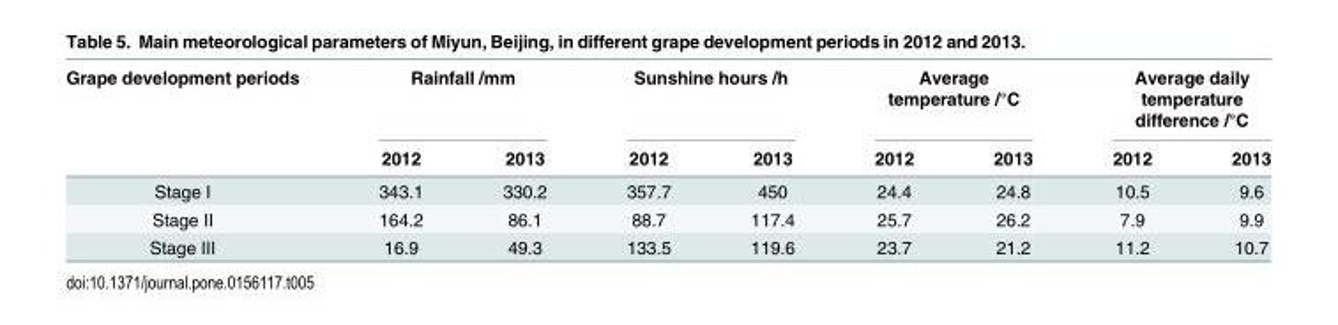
<table><thead><tr><td rowspan="2">Grape development periods</td><td colspan="2">Rainfall /mm</td><td colspan="2">Sunshine hours /h</td><td colspan="2">Average temperature /°C</td><td colspan="2">Average daily temperature difference /°C</td></tr><tr><td>2012</td><td>2013</td><td>2012</td><td>2013</td><td>2012</td><td>2013</td><td>2012</td><td>2013</td></tr></thead><tbody><tr><td>Stage I</td><td>343.1</td><td>330.2</td><td>357.7</td><td>450</td><td>24.4</td><td>24.8</td><td>10.5</td><td>9.6</td></tr><tr><td>Stage II</td><td>164.2</td><td>86.1</td><td>88.7</td><td>117.4</td><td>25.7</td><td>26.2</td><td>7.9</td><td>9.9</td></tr><tr><td>Stage III</td><td>16.9</td><td>49.3</td><td>133.5</td><td>119.6</td><td>23.7</td><td>21.2</td><td>11.2</td><td>10.7</td></tr></tbody></table>